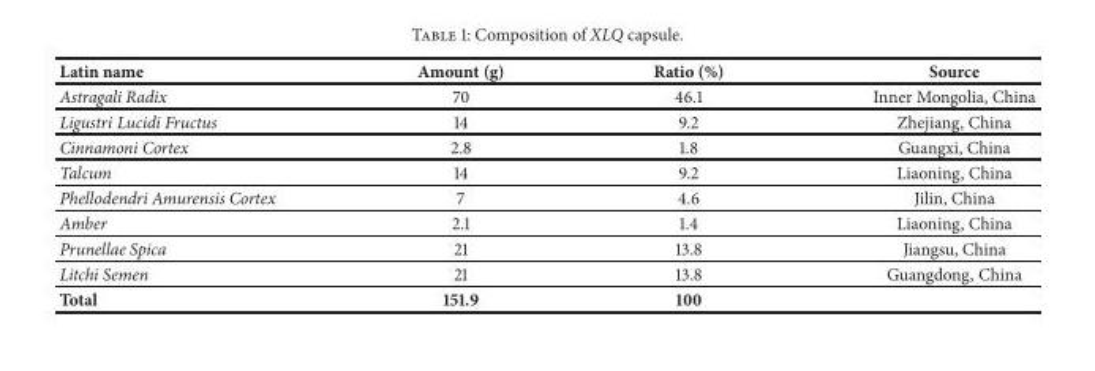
<table><thead><tr><td>Latin name</td><td>Amount (g)</td><td>Ratio (%)</td><td>Source</td></tr></thead><tbody><tr><td>Astragali Radix</td><td>70</td><td>46.1</td><td>Inner Mongolia, China</td></tr><tr><td>Ligustri Lucidi Fructus</td><td>14</td><td>9.2</td><td>Zhejiang, China</td></tr><tr><td>Cinnamoni Cortex</td><td>2.8</td><td>1.8</td><td>Guangxi, China</td></tr><tr><td>Talcum</td><td>14</td><td>9.2</td><td>Liaoning, China</td></tr><tr><td>Phellodendri Amurensis Cortex</td><td>7</td><td>4.6</td><td>Jilin, China</td></tr><tr><td>Amber</td><td>2.1</td><td>1.4</td><td>Liaoning, China</td></tr><tr><td>Prunellae Spica</td><td>21</td><td>13.8</td><td>Jiangsu, China</td></tr><tr><td>Litchi Semen</td><td>21</td><td>13.8</td><td>Guangdong, China</td></tr><tr><td>Total</td><td>151.9</td><td>100</td><td></td></tr></tbody></table>